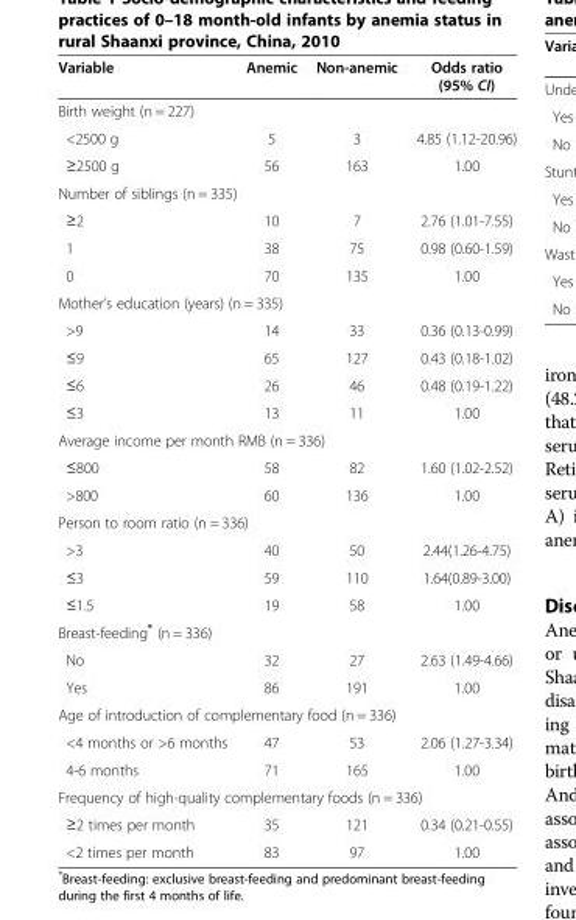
<table><thead><tr><td>Variable</td><td>Anemic</td><td>Non-anemic</td><td>Odds ratio (95% CI)</td></tr></thead><tbody><tr><td colspan="4">Birth weight (n = 227)</td></tr><tr><td>&lt;2500 g</td><td>5</td><td>3</td><td>4.85 (1.12-20.96)</td></tr><tr><td>≥2500 g</td><td>56</td><td>163</td><td>1.00</td></tr><tr><td colspan="4">Number of siblings (n = 335)</td></tr><tr><td>≥2</td><td>10</td><td>7</td><td>2.76 (1.01-7.55)</td></tr><tr><td>1</td><td>38</td><td>75</td><td>0.98 (0.60-1.59)</td></tr><tr><td>0</td><td>70</td><td>135</td><td>1.00</td></tr><tr><td colspan="4">Mother’s education (years) (n = 335)</td></tr><tr><td>&gt;9</td><td>14</td><td>33</td><td>0.36 (0.13-0.99)</td></tr><tr><td>≤9</td><td>65</td><td>127</td><td>0.43 (0.18-1.02)</td></tr><tr><td>≤6</td><td>26</td><td>46</td><td>0.48 (0.19-1.22)</td></tr><tr><td>≤3</td><td>13</td><td>11</td><td>1.00</td></tr><tr><td colspan="4">Average income per month RMB (n = 336)</td></tr><tr><td>≤800</td><td>58</td><td>82</td><td>1.60 (1.02-2.52)</td></tr><tr><td>&gt;800</td><td>60</td><td>136</td><td>1.00</td></tr><tr><td colspan="4">Person to room ratio (n = 336)</td></tr><tr><td>&gt;3</td><td>40</td><td>50</td><td>2.44(1.26-4.75)</td></tr><tr><td>≤3</td><td>59</td><td>110</td><td>1.64(0.89-3.00)</td></tr><tr><td>≤1.5</td><td>19</td><td>58</td><td>1.00</td></tr><tr><td colspan="4">Breast-feeding* (n = 336)</td></tr><tr><td>No</td><td>32</td><td>27</td><td>2.63 (1.49-4.66)</td></tr><tr><td>Yes</td><td>86</td><td>191</td><td>1.00</td></tr><tr><td colspan="4">Age of introduction of complementary food (n = 336)</td></tr><tr><td>&lt;4 months or &gt;6 months</td><td>47</td><td>53</td><td>2.06 (1.27-3.34)</td></tr><tr><td>4-6 months</td><td>71</td><td>165</td><td>1.00</td></tr><tr><td colspan="4">Frequency of high-quality complementary foods (n = 336)</td></tr><tr><td>≥2 times per month</td><td>35</td><td>121</td><td>0.34 (0.21-0.55)</td></tr><tr><td>&lt;2 times per month</td><td>83</td><td>97</td><td>1.00</td></tr></tbody></table>